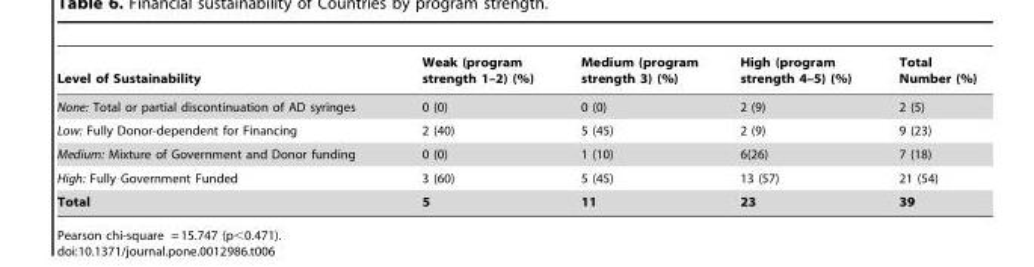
<table><thead><tr><td>Level of Sustainability</td><td>Weak (program strength 1–2) (%)</td><td>Medium (program strength 3) (%)</td><td>High (program strength 4–5) (%)</td><td>Total Number (%)</td></tr></thead><tbody><tr><td>None: Total or partial discontinuation of AD syringes</td><td>0 (0)</td><td>0 (0)</td><td>2 (9)</td><td>2 (5)</td></tr><tr><td>Low: Fully Donor-dependent for Financing</td><td>2 (40)</td><td>5 (45)</td><td>2 (9)</td><td>9 (23)</td></tr><tr><td>Medium: Mixture of Government and Donor funding</td><td>0 (0)</td><td>1 (10)</td><td>6(26)</td><td>7 (18)</td></tr><tr><td>High: Fully Government Funded</td><td>3 (60)</td><td>5 (45)</td><td>13 (57)</td><td>21 (54)</td></tr><tr><td>Total</td><td>5</td><td>11</td><td>23</td><td>39</td></tr></tbody></table>